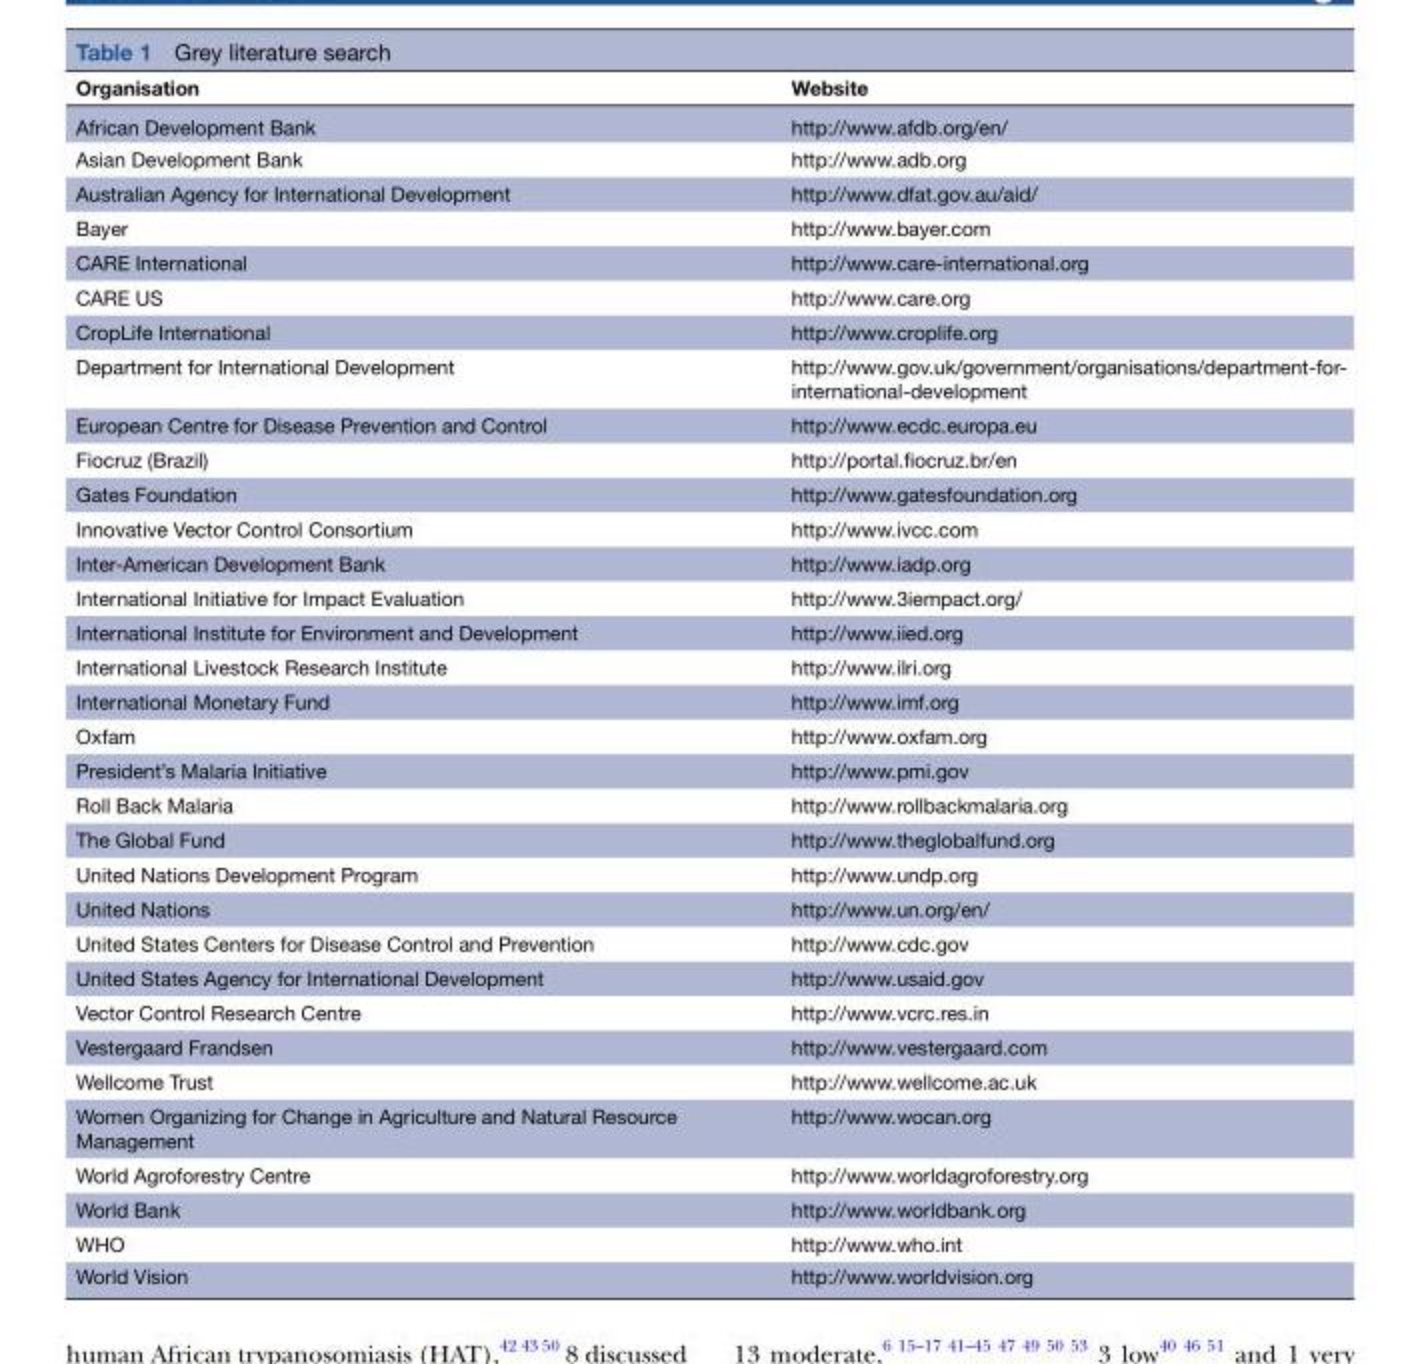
<table><thead><tr><td>Organisation</td><td>Website</td></tr></thead><tbody><tr><td>African Development Bank</td><td>http://www.afdb.org/en/</td></tr><tr><td>Asian Development Bank</td><td>http://www.adb.org</td></tr><tr><td>Australian Agency for International Development</td><td>http://www.dfat.gov.au/aid/</td></tr><tr><td>Bayer</td><td>http://www.bayer.com</td></tr><tr><td>CARE International</td><td>http://www.care-international.org</td></tr><tr><td>CARE US</td><td>http://www.care.org</td></tr><tr><td>CropLife International</td><td>http://www.croplife.org</td></tr><tr><td>Department for International Development</td><td>http://www.gov.uk/government/organisations/department-for- international-development</td></tr><tr><td>European Centre for Disease Prevention and Control</td><td>http://www.ecdc.europa.eu</td></tr><tr><td>Fiocruz (Brazil)</td><td>http://portal.fiocruz.br/en</td></tr><tr><td>Gates Foundation</td><td>http://www.gatesfoundation.org</td></tr><tr><td>Innovative Vector Control Consortium</td><td>http://www.ivcc.com</td></tr><tr><td>Inter-American Development Bank</td><td>http://www.iadp.org</td></tr><tr><td>International Initiative for Impact Evaluation</td><td>http://www.3iempact.org/</td></tr><tr><td>International Institute for Environment and Development</td><td>http://www.iied.org</td></tr><tr><td>International Livestock Research Institute</td><td>http://www.ilri.org</td></tr><tr><td>International Monetary Fund</td><td>http://www.imf.org</td></tr><tr><td>Oxfam</td><td>http://www.oxfam.org</td></tr><tr><td>President’s Malaria Initiative</td><td>http://www.pmi.gov</td></tr><tr><td>Roll Back Malaria</td><td>http://www.rollbackmalaria.org</td></tr><tr><td>The Global Fund</td><td>http://www.theglobalfund.org</td></tr><tr><td>United Nations Development Program</td><td>http://www.undp.org</td></tr><tr><td>United Nations</td><td>http://www.un.org/en/</td></tr><tr><td>United States Centers for Disease Control and Prevention</td><td>http://www.cdc.gov</td></tr><tr><td>United States Agency for International Development</td><td>http://www.usaid.gov</td></tr><tr><td>Vector Control Research Centre</td><td>http://www.vcrc.res.in</td></tr><tr><td>Vestergaard Frandsen</td><td>http://www.vestergaard.com</td></tr><tr><td>Wellcome Trust</td><td>http://www.wellcome.ac.uk</td></tr><tr><td>Women Organizing for Change in Agriculture and Natural Resource Management</td><td>http://www.wocan.org</td></tr><tr><td>World Agroforestry Centre</td><td>http://www.worldagroforestry.org</td></tr><tr><td>World Bank</td><td>http://www.worldbank.org</td></tr><tr><td>WHO</td><td>http://www.who.int</td></tr><tr><td>World Vision</td><td>http://www.worldvision.org</td></tr></tbody></table>